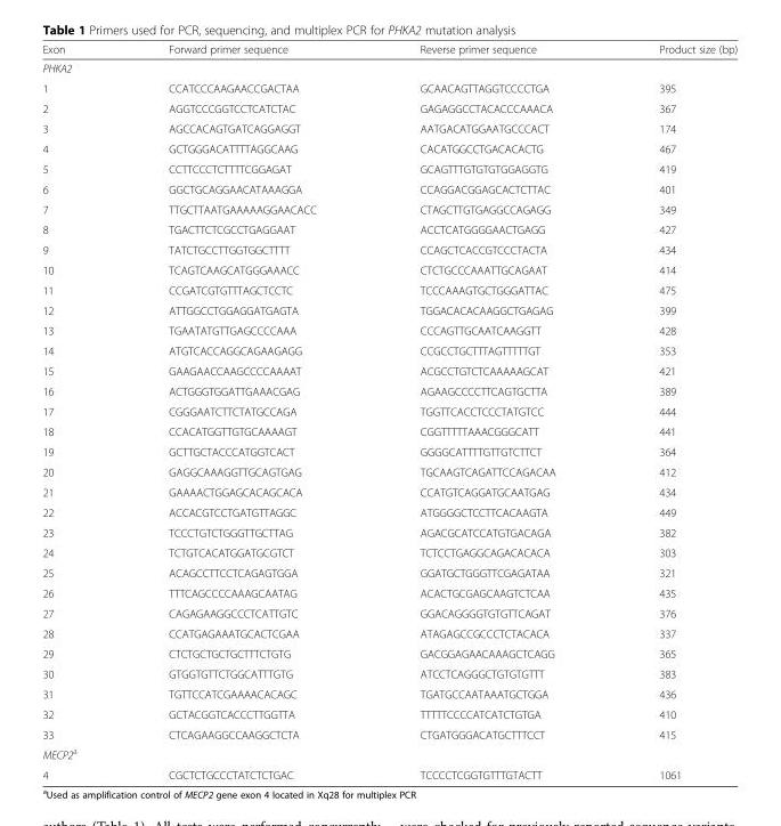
<table><thead><tr><td>Exon</td><td>Forward primer sequence</td><td>Reverse primer sequence</td><td>Product size (bp)</td></tr></thead><tbody><tr><td colspan="4">PHKA2</td></tr><tr><td>1</td><td>CCATCCCAAGAACCGACTAA</td><td>GCAACAGTTAGGTCCCCTGA</td><td>395</td></tr><tr><td>2</td><td>AGGTCCCGGTCCTCATCTAC</td><td>GAGAGGCCTACACCCAAACA</td><td>367</td></tr><tr><td>3</td><td>AGCCACAGTGATCAGGAGGT</td><td>AATGACATGGAATGCCCACT</td><td>174</td></tr><tr><td>4</td><td>GCTGGGACATTTTAGGCAAG</td><td>CACATGGCCTGACACACTG</td><td>467</td></tr><tr><td>5</td><td>CCTTCCCTCTTTTCGGAGAT</td><td>GCAGTTTGTGTGTGGAGGTG</td><td>419</td></tr><tr><td>6</td><td>GGCTGCAGGAACATAAAGGA</td><td>CCAGGACGGAGCACTCTTAC</td><td>401</td></tr><tr><td>7</td><td>TTGCTTAATGAAAAAGGAACACC</td><td>CTAGCTTGTGAGGCCAGAGG</td><td>349</td></tr><tr><td>8</td><td>TGACTTCTCGCCTGAGGAAT</td><td>ACCTCATGGGGAACTGAGG</td><td>427</td></tr><tr><td>9</td><td>TATCTGCCTTGGTGGCTTTT</td><td>CCAGCTCACCGTCCCTACTA</td><td>434</td></tr><tr><td>10</td><td>TCAGTCAAGCATGGGAAACC</td><td>CTCTGCCCAAATTGCAGAAT</td><td>414</td></tr><tr><td>11</td><td>CCGATCGTGTTTAGCTCCTC</td><td>TCCCAAAGTGCTGGGATTAC</td><td>475</td></tr><tr><td>12</td><td>ATTGGCCTGGAGGATGAGTA</td><td>TGGACACACAAGGCTGAGAG</td><td>399</td></tr><tr><td>13</td><td>TGAATATGTTGAGCCCCAAA</td><td>CCCAGTTGCAATCAAGGTT</td><td>428</td></tr><tr><td>14</td><td>ATGTCACCAGGCAGAAGAGG</td><td>CCGCCTGCTTTAGTTTTTGT</td><td>353</td></tr><tr><td>15</td><td>GAAGAACCAAGCCCCAAAAT</td><td>ACGCCTGTCTCAAAAAGCAT</td><td>421</td></tr><tr><td>16</td><td>ACTGGGTGGATTGAAACGAG</td><td>AGAAGCCCCTTCAGTGCTTA</td><td>389</td></tr><tr><td>17</td><td>CGGGAATCTTCTATGCCAGA</td><td>TGGTTCACCTCCCTATGTCC</td><td>444</td></tr><tr><td>18</td><td>CCACATGGTTGTGCAAAAGT</td><td>CGGTTTTTAAACGGGCATT</td><td>441</td></tr><tr><td>19</td><td>GCTTGCTACCCATGGTCACT</td><td>GGGGCATTTTGTTGTCTTCT</td><td>364</td></tr><tr><td>20</td><td>GAGGCAAAGGTTGCAGTGAG</td><td>TGCAAGTCAGATTCCAGACAA</td><td>412</td></tr><tr><td>21</td><td>GAAAACTGGAGCACAGCACA</td><td>CCATGTCAGGATGCAATGAG</td><td>434</td></tr><tr><td>22</td><td>ACCACGTCCTGATGTTAGGC</td><td>ATGGGGCTCCTTCACAAGTA</td><td>449</td></tr><tr><td>23</td><td>TCCCTGTCTGGGTTGCTTAG</td><td>AGACGCATCCATGTGACAGA</td><td>382</td></tr><tr><td>24</td><td>TCTGTCACATGGATGCGTCT</td><td>TCTCCTGAGGCAGACACACA</td><td>303</td></tr><tr><td>25</td><td>ACAGCCTTCCTCAGAGTGGA</td><td>GGATGCTGGGTTCGAGATAA</td><td>321</td></tr><tr><td>26</td><td>TTTCAGCCCCAAAGCAATAG</td><td>ACACTGCGAGCAAGTCTCAA</td><td>435</td></tr><tr><td>27</td><td>CAGAGAAGGCCCTCATTGTC</td><td>GGACAGGGGTGTGTTCAGAT</td><td>376</td></tr><tr><td>28</td><td>CCATGAGAAATGCACTCGAA</td><td>ATAGAGCCGCCCTCTACACA</td><td>337</td></tr><tr><td>29</td><td>CTCTGCTGCTGCTTTCTGTG</td><td>GACGGAGAACAAAGCTCAGG</td><td>365</td></tr><tr><td>30</td><td>GTGGTGTTCTGGCATTTGTG</td><td>ATCCTCAGGGCTGTGTGTTT</td><td>383</td></tr><tr><td>31</td><td>TGTTCCATCGAAAACACAGC</td><td>TGATGCCAATAAATGCTGGA</td><td>436</td></tr><tr><td>32</td><td>GCTACGGTCACCCTTGGTTA</td><td>TTTTTCCCCATCATCTGTGA</td><td>410</td></tr><tr><td>33</td><td>CTCAGAAGGCCAAGGCTCTA</td><td>CTGATGGGACATGCTTTCCT</td><td>415</td></tr><tr><td colspan="4">MECP2<sup>a</sup></td></tr><tr><td>4</td><td>CGCTCTGCCCTATCTCTGAC</td><td>TCCCCTCGGTGTTTGTACTT</td><td>1061</td></tr></tbody></table>